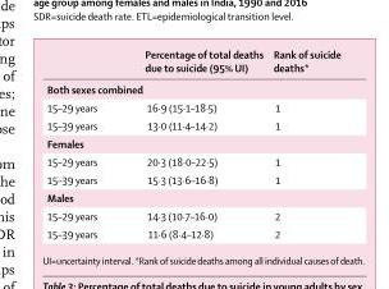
<table><thead><tr><td></td><td>Percentage of total deaths due to suicide (95% UI)</td><td>Rank of suicide deaths*</td></tr></thead><tbody><tr><td colspan="3">Both sexes combined</td></tr><tr><td>15–29 years</td><td>16·9 (15·1–18·5)</td><td>1</td></tr><tr><td>15–39 years</td><td>13·0 (11·4–14·2)</td><td>1</td></tr><tr><td colspan="3">Females</td></tr><tr><td>15–29 years</td><td>20·3 (18·0–22·5)</td><td>1</td></tr><tr><td>15–39 years</td><td>15·3 (13·6–16·8)</td><td>1</td></tr><tr><td colspan="3">Males</td></tr><tr><td>15–29 years</td><td>14·3 (10·7–16·0)</td><td>2</td></tr><tr><td>15–39 years</td><td>11·6 (8·4–12·8)</td><td>2</td></tr></tbody></table>